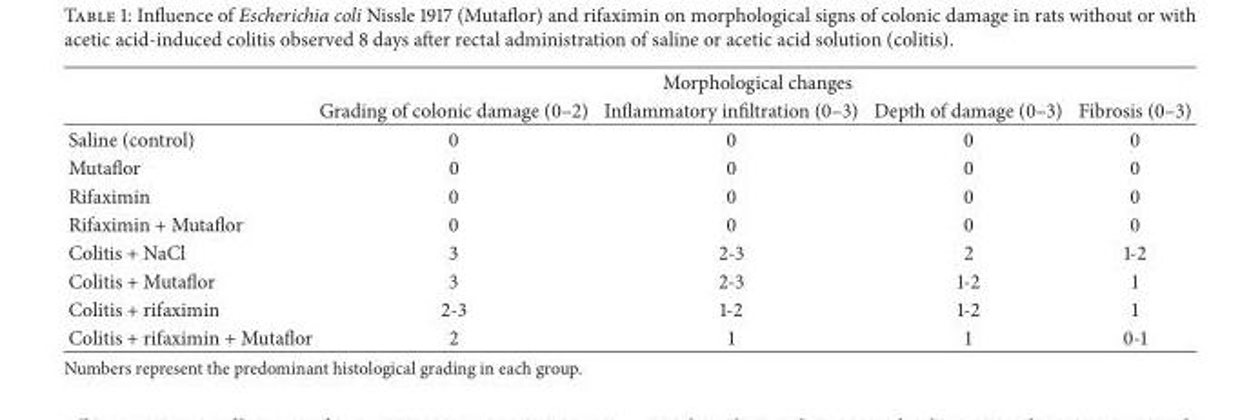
<table><thead><tr><td rowspan="2"></td><td colspan="4">Morphological changes</td></tr><tr><td>Grading of colonic damage (0–2)</td><td>Inflammatory infiltration (0–3)</td><td>Depth of damage (0–3)</td><td>Fibrosis (0–3)</td></tr></thead><tbody><tr><td>Saline (control)</td><td>0</td><td>0</td><td>0</td><td>0</td></tr><tr><td>Mutaflor</td><td>0</td><td>0</td><td>0</td><td>0</td></tr><tr><td>Rifaximin</td><td>0</td><td>0</td><td>0</td><td>0</td></tr><tr><td>Rifaximin + Mutaflor</td><td>0</td><td>0</td><td>0</td><td>0</td></tr><tr><td>Colitis + NaCl</td><td>3</td><td>2-3</td><td>2</td><td>1-2</td></tr><tr><td>Colitis + Mutaflor</td><td>3</td><td>2-3</td><td>1-2</td><td>1</td></tr><tr><td>Colitis + rifaximin</td><td>2-3</td><td>1-2</td><td>1-2</td><td>1</td></tr><tr><td>Colitis + rifaximin + Mutaflor</td><td>2</td><td>1</td><td>1</td><td>0-1</td></tr></tbody></table>